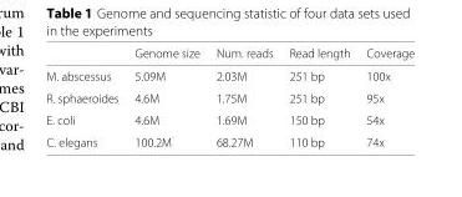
<table><thead><tr><td></td><td>Genome size</td><td>Num. reads</td><td>Read length</td><td>Coverage</td></tr></thead><tbody><tr><td>M. abscessus</td><td>5.09M</td><td>2.03M</td><td>251 bp</td><td>100x</td></tr><tr><td>R. sphaeroides</td><td>4.6M</td><td>1.75M</td><td>251 bp</td><td>95x</td></tr><tr><td>E. coli</td><td>4.6M</td><td>1.69M</td><td>150 bp</td><td>54x</td></tr><tr><td>C. elegans</td><td>100.2M</td><td>68.27M</td><td>110 bp</td><td>74x</td></tr></tbody></table>